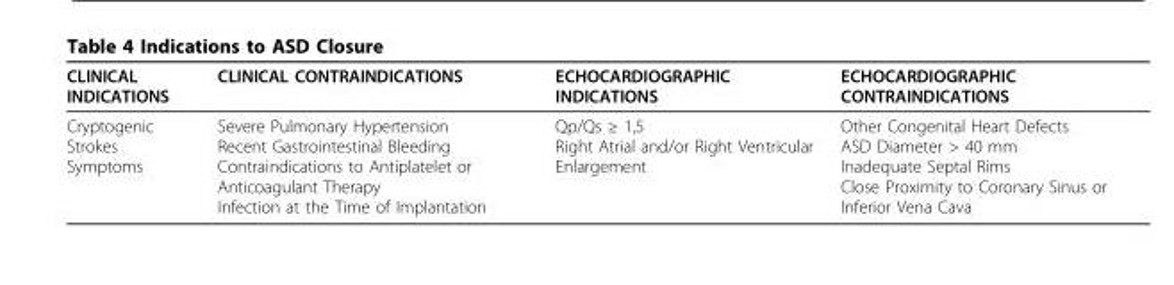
<table><thead><tr><td>CLINICAL INDICATIONS</td><td>CLINICAL CONTRAINDICATIONS</td><td>ECHOCARDIOGRAPHIC INDICATIONS</td><td>ECHOCARDIOGRAPHIC CONTRAINDICATIONS</td></tr></thead><tbody><tr><td>Cryptogenic Strokes Symptoms</td><td>Severe Pulmonary Hypertension Recent Gastrointestinal Bleeding Contraindications to Antiplatelet or Anticoagulant Therapy Infection at the Time of Implantation</td><td>Qp/Qs ≥ 1,5 Right Atrial and/or Right Ventricular Enlargement</td><td>Other Congenital Heart Defects ASD Diameter &gt; 40 mm Inadequate Septal Rims Close Proximity to Coronary Sinus or Inferior Vena Cava</td></tr></tbody></table>